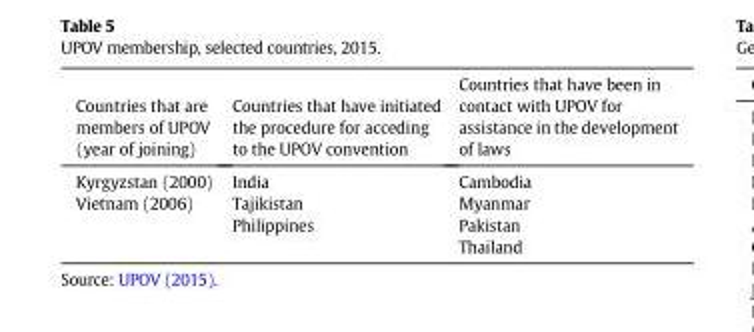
<table><thead><tr><td>Countries that are members of UPOV (year of joining)</td><td>Countries that have initiated the procedure for acceding to the UPOV convention</td><td>Countries that have been in contact with UPOV for assistance in the development of laws</td></tr></thead><tbody><tr><td>Kyrgyzstan (2000)</td><td>India</td><td>Cambodia</td></tr><tr><td rowspan="3">Vietnam (2006)</td><td>Tajikistan</td><td>Myanmar</td></tr><tr><td>Philippines</td><td>Pakistan</td></tr><tr><td></td><td>Thailand</td></tr></tbody></table>